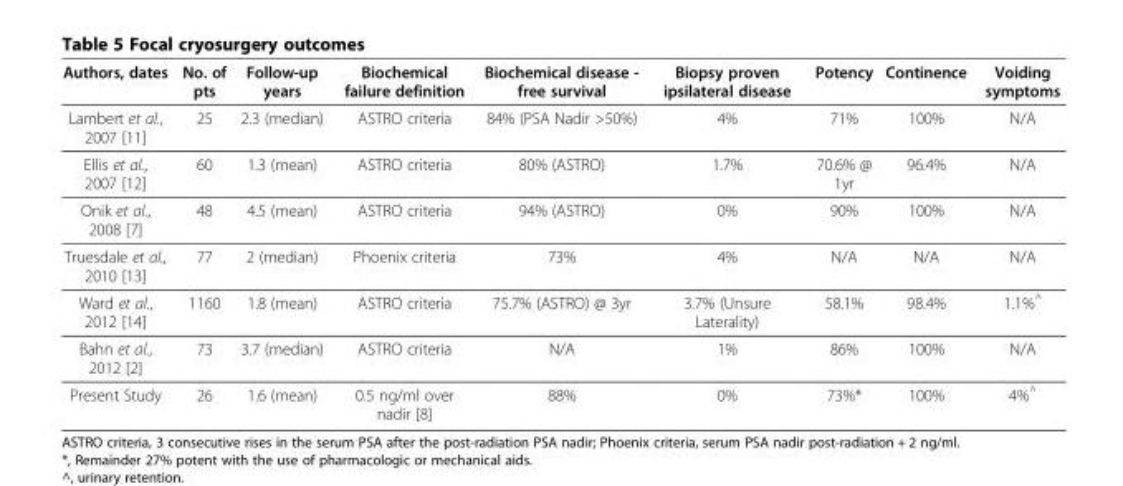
<table><thead><tr><td>Authors, dates</td><td>No. of pts</td><td>Follow-up years</td><td>Biochemical failure definition</td><td>Biochemical disease - free survival</td><td>Biopsy proven ipsilateral disease</td><td>Potency</td><td>Continence</td><td>Voiding symptoms</td></tr></thead><tbody><tr><td>Lambert et al., 2007 [11]</td><td>25</td><td>2.3 (median)</td><td>ASTRO criteria</td><td>84% (PSA Nadir &gt;50%)</td><td>4%</td><td>71%</td><td>100%</td><td>N/A</td></tr><tr><td>Ellis et al., 2007 [12]</td><td>60</td><td>1.3 (mean)</td><td>ASTRO criteria</td><td>80% (ASTRO)</td><td>1.7%</td><td>70.6% @ 1yr</td><td>96.4%</td><td>N/A</td></tr><tr><td>Onik et al., 2008 [7]</td><td>48</td><td>4.5 (mean)</td><td>ASTRO criteria</td><td>94% (ASTRO)</td><td>0%</td><td>90%</td><td>100%</td><td>N/A</td></tr><tr><td>Truesdale et al., 2010 [13]</td><td>77</td><td>2 (median)</td><td>Phoenix criteria</td><td>73%</td><td>4%</td><td>N/A</td><td>N/A</td><td>N/A</td></tr><tr><td>Ward et al., 2012 [14]</td><td>1160</td><td>1.8 (mean)</td><td>ASTRO criteria</td><td>75.7% (ASTRO) @ 3yr</td><td>3.7% (Unsure Laterality)</td><td>58.1%</td><td>98.4%</td><td>1.1%<sup>^</sup></td></tr><tr><td>Bahn et al., 2012 [2]</td><td>73</td><td>3.7 (median)</td><td>ASTRO criteria</td><td>N/A</td><td>1%</td><td>86%</td><td>100%</td><td>N/A</td></tr><tr><td>Present Study</td><td>26</td><td>1.6 (mean)</td><td>0.5 ng/ml over nadir [8]</td><td>88%</td><td>0%</td><td>73%*</td><td>100%</td><td>4%<sup>^</sup></td></tr></tbody></table>